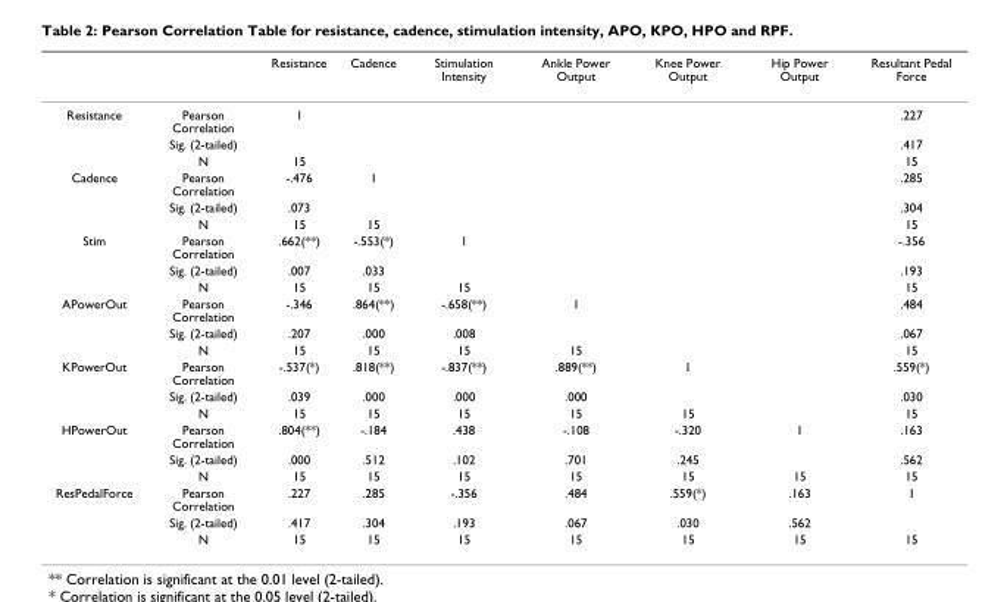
<table><thead><tr><td></td><td></td><td>Resistance</td><td>Cadence</td><td>Stimulation Intensity</td><td>Ankle Power Output</td><td>Knee Power Output</td><td>Hip Power Output</td><td>Resultant Pedal Force</td></tr></thead><tbody><tr><td rowspan="3">Resistance</td><td>Pearson Correlation</td><td>1</td><td></td><td></td><td></td><td></td><td></td><td>.227</td></tr><tr><td>Sig. (2-tailed)</td><td></td><td></td><td></td><td></td><td></td><td></td><td>.417</td></tr><tr><td>N</td><td>15</td><td></td><td></td><td></td><td></td><td></td><td>15</td></tr><tr><td rowspan="3">Cadence</td><td>Pearson Correlation</td><td>-.476</td><td>1</td><td></td><td></td><td></td><td></td><td>.285</td></tr><tr><td>Sig. (2-tailed)</td><td>.073</td><td></td><td></td><td></td><td></td><td></td><td>.304</td></tr><tr><td>N</td><td>15</td><td>15</td><td></td><td></td><td></td><td></td><td>15</td></tr><tr><td rowspan="3">Stim</td><td>Pearson Correlation</td><td>.662(**)</td><td>-.553(*)</td><td>1</td><td></td><td></td><td></td><td>-.356</td></tr><tr><td>Sig. (2-tailed)</td><td>.007</td><td>.033</td><td></td><td></td><td></td><td></td><td>.193</td></tr><tr><td>N</td><td>15</td><td>15</td><td>15</td><td></td><td></td><td></td><td>15</td></tr><tr><td rowspan="3">APowerOut</td><td>Pearson Correlation</td><td>-.346</td><td>.864(**)</td><td>-.658(**)</td><td>1</td><td></td><td></td><td>.484</td></tr><tr><td>Sig. (2-tailed)</td><td>.207</td><td>.000</td><td>.008</td><td></td><td></td><td></td><td>.067</td></tr><tr><td>N</td><td>15</td><td>15</td><td>15</td><td>15</td><td></td><td></td><td>15</td></tr><tr><td rowspan="3">KPowerOut</td><td>Pearson Correlation</td><td>-.537(*)</td><td>.818(**)</td><td>-.837(**)</td><td>.889(**)</td><td>1</td><td></td><td>.559(*)</td></tr><tr><td>Sig. (2-tailed)</td><td>.039</td><td>.000</td><td>.000</td><td>.000</td><td></td><td></td><td>.030</td></tr><tr><td>N</td><td>15</td><td>15</td><td>15</td><td>15</td><td>15</td><td></td><td>15</td></tr><tr><td rowspan="3">HPowerOut</td><td>Pearson Correlation</td><td>.804(**)</td><td>-.184</td><td>.438</td><td>-.108</td><td>-.320</td><td>1</td><td>.163</td></tr><tr><td>Sig. (2-tailed)</td><td>.000</td><td>.512</td><td>.102</td><td>.701</td><td>.245</td><td></td><td>.562</td></tr><tr><td>N</td><td>15</td><td>15</td><td>15</td><td>15</td><td>15</td><td>15</td><td>15</td></tr><tr><td rowspan="3">ResPedalForce</td><td>Pearson Correlation</td><td>.227</td><td>.285</td><td>-.356</td><td>.484</td><td>.559(*)</td><td>.163</td><td>1</td></tr><tr><td>Sig. (2-tailed)</td><td>.417</td><td>.304</td><td>.193</td><td>.067</td><td>.030</td><td>.562</td><td></td></tr><tr><td>N</td><td>15</td><td>15</td><td>15</td><td>15</td><td>15</td><td>15</td><td>15</td></tr></tbody></table>